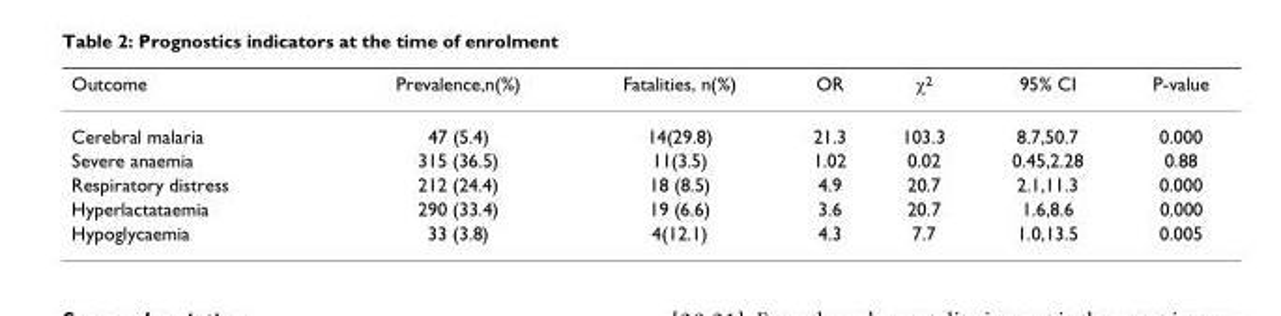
<table><thead><tr><td>Outcome</td><td>Prevalence,n(%)</td><td>Fatalities, n(%)</td><td>OR</td><td>χ<sup>2</sup></td><td>95% CI</td><td>P-value</td></tr></thead><tbody><tr><td>Cerebral malaria</td><td>47 (5.4)</td><td>14(29.8)</td><td>21.3</td><td>103.3</td><td>8.7,50.7</td><td>0.000</td></tr><tr><td>Severe anaemia</td><td>315 (36.5)</td><td>11(3.5)</td><td>1.02</td><td>0.02</td><td>0.45,2.28</td><td>0.88</td></tr><tr><td>Respiratory distress</td><td>212 (24.4)</td><td>18 (8.5)</td><td>4.9</td><td>20.7</td><td>2.1,11.3</td><td>0.000</td></tr><tr><td>Hyperlactataemia</td><td>290 (33.4)</td><td>19 (6.6)</td><td>3.6</td><td>20.7</td><td>1.6,8.6</td><td>0.000</td></tr><tr><td>Hypoglycaemia</td><td>33 (3.8)</td><td>4(12.1)</td><td>4.3</td><td>7.7</td><td>1.0,13.5</td><td>0.005</td></tr></tbody></table>